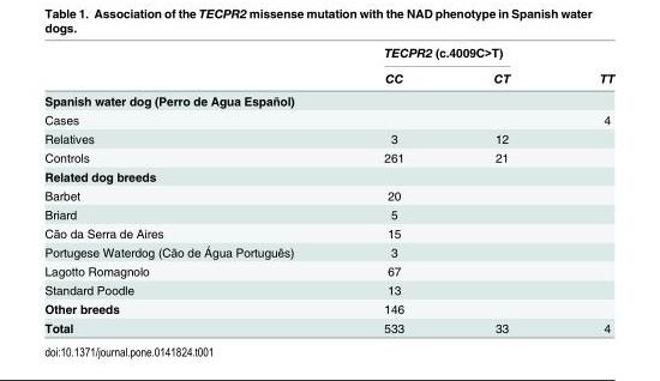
<table><thead><tr><td rowspan="2"></td><td colspan="2">TECPR2 (c.4009C&gt;T)</td><td rowspan="2">TT</td></tr><tr><td>CC</td><td>CT</td></tr></thead><tbody><tr><td colspan="4">Spanish water dog (Perro de Agua Español)</td></tr><tr><td>Cases</td><td></td><td></td><td>4</td></tr><tr><td>Relatives</td><td>3</td><td>12</td><td></td></tr><tr><td>Controls</td><td>261</td><td>21</td><td></td></tr><tr><td colspan="4">Related dog breeds</td></tr><tr><td>Barbet</td><td>20</td><td></td><td></td></tr><tr><td>Briard</td><td>5</td><td></td><td></td></tr><tr><td>Cão da Serra de Aires</td><td>15</td><td></td><td></td></tr><tr><td>Portugese Waterdog (Cão de Água Português)</td><td>3</td><td></td><td></td></tr><tr><td>Lagotto Romagnolo</td><td>67</td><td></td><td></td></tr><tr><td>Standard Poodle</td><td>13</td><td></td><td></td></tr><tr><td>Other breeds</td><td>146</td><td></td><td></td></tr><tr><td>Total</td><td>533</td><td>33</td><td>4</td></tr></tbody></table>